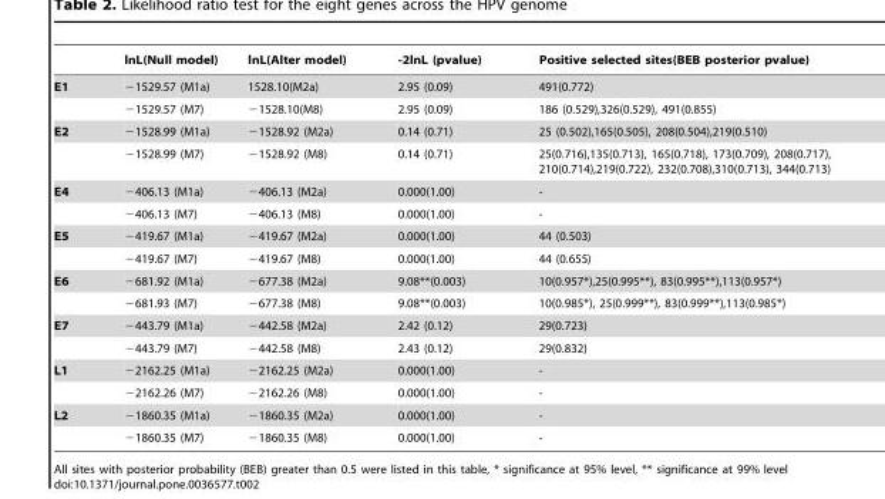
<table><thead><tr><td></td><td>lnL(Null model)</td><td>lnL(Alter model)</td><td>-2lnL (pvalue)</td><td>Positive selected sites(BEB posterior pvalue)</td></tr></thead><tbody><tr><td rowspan="2">E1</td><td>−1529.57 (M1a)</td><td>1528.10(M2a)</td><td>2.95 (0.09)</td><td>491(0.772)</td></tr><tr><td>−1529.57 (M7)</td><td>−1528.10(M8)</td><td>2.95 (0.09)</td><td>186 (0.529),326(0.529), 491(0.855)</td></tr><tr><td rowspan="2">E2</td><td>−1528.99 (M1a)</td><td>−1528.92 (M2a)</td><td>0.14 (0.71)</td><td>25 (0.502),165(0.505), 208(0.504),219(0.510)</td></tr><tr><td>−1528.99 (M7)</td><td>−1528.92 (M8)</td><td>0.14 (0.71)</td><td>25(0.716),135(0.713), 165(0.718), 173(0.709), 208(0.717), 210(0.714),219(0.722), 232(0.708),310(0.713), 344(0.713)</td></tr><tr><td rowspan="2">E4</td><td>−406.13 (M1a)</td><td>−406.13 (M2a)</td><td>0.000(1.00)</td><td>-</td></tr><tr><td>−406.13 (M7)</td><td>−406.13 (M8)</td><td>0.000(1.00)</td><td>-</td></tr><tr><td rowspan="2">E5</td><td>−419.67 (M1a)</td><td>−419.67 (M2a)</td><td>0.000(1.00)</td><td>44 (0.503)</td></tr><tr><td>−419.67 (M7)</td><td>−419.67 (M8)</td><td>0.000(1.00)</td><td>44 (0.655)</td></tr><tr><td rowspan="2">E6</td><td>−681.92 (M1a)</td><td>−677.38 (M2a)</td><td>9.08**(0.003)</td><td>10(0.957*),25(0.995**), 83(0.995**),113(0.957*)</td></tr><tr><td>−681.93 (M7)</td><td>−677.38 (M8)</td><td>9.08**(0.003)</td><td>10(0.985*), 25(0.999**), 83(0.999**),113(0.985*)</td></tr><tr><td rowspan="2">E7</td><td>−443.79 (M1a)</td><td>−442.58 (M2a)</td><td>2.42 (0.12)</td><td>29(0.723)</td></tr><tr><td>−443.79 (M7)</td><td>−442.58 (M8)</td><td>2.43 (0.12)</td><td>29(0.832)</td></tr><tr><td rowspan="2">L1</td><td>−2162.25 (M1a)</td><td>−2162.25 (M2a)</td><td>0.000(1.00)</td><td>-</td></tr><tr><td>−2162.26 (M7)</td><td>−2162.26 (M8)</td><td>0.000(1.00)</td><td>-</td></tr><tr><td rowspan="2">L2</td><td>−1860.35 (M1a)</td><td>−1860.35 (M2a)</td><td>0.000(1.00)</td><td>-</td></tr><tr><td>−1860.35 (M7)</td><td>−1860.35 (M8)</td><td>0.000(1.00)</td><td>-</td></tr></tbody></table>